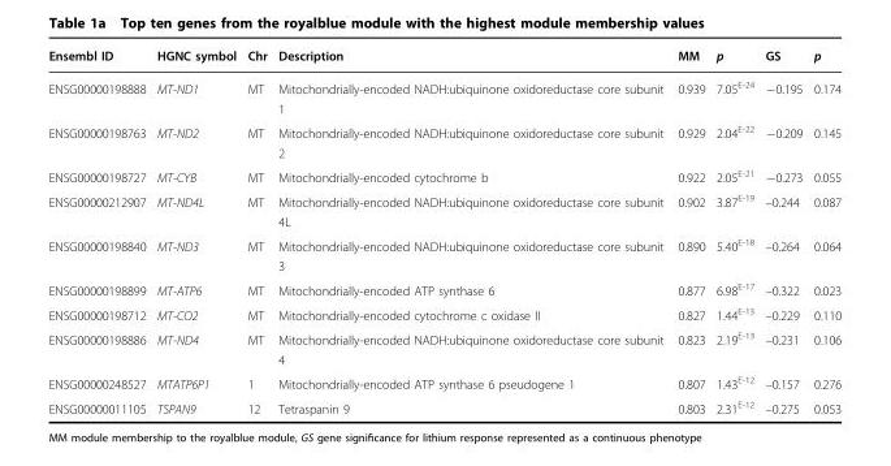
<table><thead><tr><td>Ensembl ID</td><td>HGNC symbol</td><td>Chr</td><td>Description</td><td>MM</td><td>p</td><td>GS</td><td>p</td></tr></thead><tbody><tr><td>ENSG00000198888</td><td>MT-ND1</td><td>MT</td><td>Mitochondrially-encoded NADH:ubiquinone oxidoreductase core subunit 1</td><td>0.939</td><td>7.05<sup>E-24</sup></td><td>−0.195</td><td>0.174</td></tr><tr><td>ENSG00000198763</td><td>MT-ND2</td><td>MT</td><td>Mitochondrially-encoded NADH:ubiquinone oxidoreductase core subunit 2</td><td>0.929</td><td>2.04<sup>E-22</sup></td><td>−0.209</td><td>0.145</td></tr><tr><td>ENSG00000198727</td><td>MT-CYB</td><td>MT</td><td>Mitochondrially-encoded cytochrome b</td><td>0.922</td><td>2.05<sup>E-21</sup></td><td>−0.273</td><td>0.055</td></tr><tr><td>ENSG00000212907</td><td>MT-ND4L</td><td>MT</td><td>Mitochondrially-encoded NADH:ubiquinone oxidoreductase core subunit 4L</td><td>0.902</td><td>3.87<sup>E-19</sup></td><td>–0.244</td><td>0.087</td></tr><tr><td>ENSG00000198840</td><td>MT-ND3</td><td>MT</td><td>Mitochondrially-encoded NADH:ubiquinone oxidoreductase core subunit 3</td><td>0.890</td><td>5.40<sup>E-18</sup></td><td>–0.264</td><td>0.064</td></tr><tr><td>ENSG00000198899</td><td>MT-ATP6</td><td>MT</td><td>Mitochondrially-encoded ATP synthase 6</td><td>0.877</td><td>6.98<sup>E-17</sup></td><td>–0.322</td><td>0.023</td></tr><tr><td>ENSG00000198712</td><td>MT-CO2</td><td>MT</td><td>Mitochondrially-encoded cytochrome c oxidase II</td><td>0.827</td><td>1.44<sup>E-13</sup></td><td>–0.229</td><td>0.110</td></tr><tr><td>ENSG00000198886</td><td>MT-ND4</td><td>MT</td><td>Mitochondrially-encoded NADH:ubiquinone oxidoreductase core subunit 4</td><td>0.823</td><td>2.19<sup>E-13</sup></td><td>–0.231</td><td>0.106</td></tr><tr><td>ENSG00000248527</td><td>MTATP6P1</td><td>1</td><td>Mitochondrially-encoded ATP synthase 6 pseudogene 1</td><td>0.807</td><td>1.43<sup>E-12</sup></td><td>–0.157</td><td>0.276</td></tr><tr><td>ENSG00000011105</td><td>TSPAN9</td><td>12</td><td>Tetraspanin 9</td><td>0.803</td><td>2.31<sup>E-12</sup></td><td>–0.275</td><td>0.053</td></tr></tbody></table>